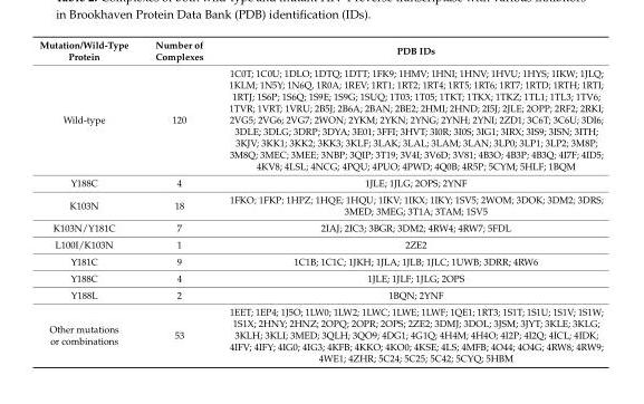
<table><thead><tr><td>Mutation/Wild-Type Protein</td><td>Number of Complexes</td><td>PDB IDs</td></tr></thead><tbody><tr><td>Wild-type</td><td>120</td><td>1C0T; 1C0U; 1DLO; 1DTQ; 1DTT; 1FK9; 1HMV; 1HNI; 1HNV; 1HVU; 1HYS; 1IKW; 1JLQ; 1KLM; 1N5Y; 1N6Q, 1R0A; 1REV; 1RT1; 1RT2; 1RT4; 1RT5; 1RT6; 1RT7; 1RTD; 1RTH; 1RTI; 1RTJ; 1S6P; 1S6Q; 1S9E; 1S9G; 1SUQ; 1T03; 1T05; 1TKT; 1TKX; 1TKZ; 1TL1; 1TL3; 1TV6; 1TVR; 1VRT; 1VRU; 2B5J; 2B6A; 2BAN; 2BE2; 2HMI; 2HND; 2I5J; 2JLE; 2OPP; 2RF2; 2RKI; 2VG5; 2VG6; 2VG7; 2WON; 2YKM; 2YKN; 2YNG; 2YNH; 2YNI; 2ZD1; 3C6T; 3C6U; 3DI6; 3DLE; 3DLG; 3DRP; 3DYA; 3E01; 3FFI; 3HVT; 3I0R; 3I0S; 3IG1; 3IRX; 3IS9; 3ISN; 3ITH; 3KJV; 3KK1; 3KK2; 3KK3; 3KLF; 3LAK; 3LAL; 3LAM; 3LAN; 3LP0; 3LP1; 3LP2; 3M8P; 3M8Q; 3MEC; 3MEE; 3NBP; 3QIP; 3T19; 3V4I; 3V6D; 3V81; 4B3O; 4B3P; 4B3Q; 4I7F; 4ID5; 4KV8; 4LSL; 4NCG; 4PQU; 4PUO; 4PWD; 4Q0B; 4R5P; 5CYM; 5HLF; 1BQM</td></tr><tr><td>Y188C</td><td>4</td><td>1JLE; 1JLG; 2OPS; 2YNF</td></tr><tr><td>K103N</td><td>18</td><td>1FKO; 1FKP; 1HPZ; 1HQE; 1HQU; 1IKV; 1IKX; 1IKY; 1SV5; 2WOM; 3DOK; 3DM2; 3DRS; 3MED; 3MEG; 3T1A; 3TAM; 1SV5</td></tr><tr><td>K103N/Y181C</td><td>7</td><td>2IAJ; 2IC3; 3BGR; 3DM2; 4RW4; 4RW7; 5FDL</td></tr><tr><td>L100I/K103N</td><td>1</td><td>2ZE2</td></tr><tr><td>Y181C</td><td>9</td><td>1C1B; 1C1C; 1JKH; 1JLA; 1JLB; 1JLC; 1UWB; 3DRR; 4RW6</td></tr><tr><td>Y188C</td><td>4</td><td>1JLE; 1JLF; 1JLG; 2OPS</td></tr><tr><td>Y188L</td><td>2</td><td>1BQN; 2YNF</td></tr><tr><td>Other mutations or combinations</td><td>53</td><td>1EET; 1EP4; 1J5O; 1LW0; 1LW2; 1LWC; 1LWE; 1LWF; 1QE1; 1RT3; 1S1T; 1S1U; 1S1V; 1S1W; 1S1X; 2HNY; 2HNZ; 2OPQ; 2OPR; 2OPS; 2ZE2; 3DMJ; 3DOL; 3JSM; 3JYT; 3KLE; 3KLG; 3KLH; 3KLI; 3MED; 3QLH; 3QO9; 4DG1; 4G1Q; 4H4M; 4H4O; 4I2P; 4I2Q; 4ICL; 4IDK; 4IFV; 4IFY; 4IG0; 4IG3; 4KFB; 4KKO; 4KO0; 4KSE; 4LS; 4MFB; 4O44; 4O4G; 4RW8; 4RW9; 4WE1; 4ZHR; 5C24; 5C25; 5C42; 5CYQ; 5HBM</td></tr></tbody></table>